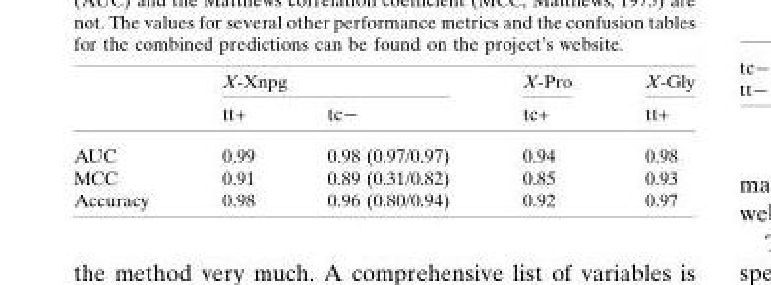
<table><thead><tr><td rowspan="2"></td><td colspan="2">X-Xnpg</td><td rowspan="2">X-Pro tc+</td><td rowspan="2">X-Gly tt+</td></tr><tr><td>tt+</td><td>tc�</td></tr></thead><tbody><tr><td>AUC</td><td>0.99</td><td>0.98 (0.97/0.97)</td><td>0.94</td><td>0.98</td></tr><tr><td>MCC</td><td>0.91</td><td>0.89 (0.31/0.82)</td><td>0.85</td><td>0.93</td></tr><tr><td>Accuracy</td><td>0.98</td><td>0.96 (0.80/0.94)</td><td>0.92</td><td>0.97</td></tr></tbody></table>